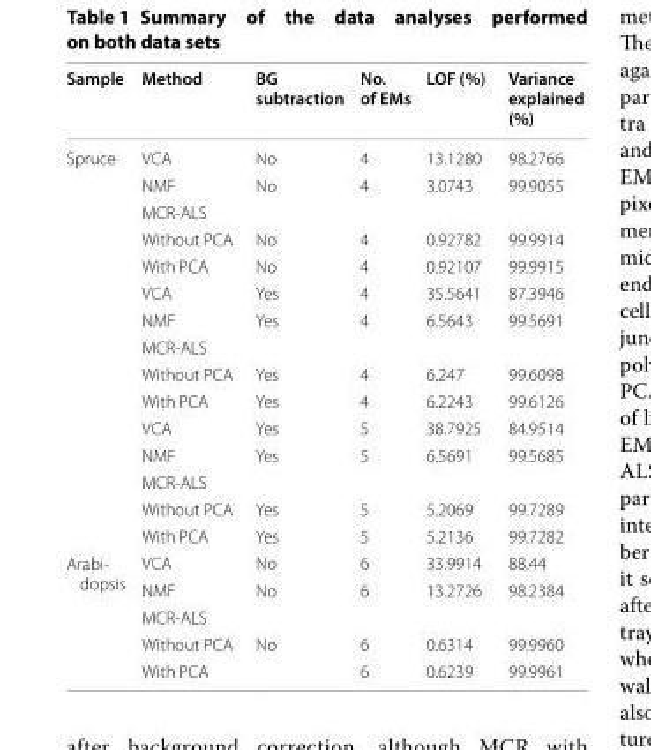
<table><thead><tr><td>Sample</td><td>Method</td><td>BG subtraction</td><td>No. of EMs</td><td>LOF (%)</td><td>Variance explained (%)</td></tr></thead><tbody><tr><td rowspan="15">Spruce</td><td>VCA</td><td>No</td><td>4</td><td>13.1280</td><td>98.2766</td></tr><tr><td>NMF</td><td>No</td><td>4</td><td>3.0743</td><td>99.9055</td></tr><tr><td colspan="5">MCR‑ALS</td></tr><tr><td>Without PCA</td><td>No</td><td>4</td><td>0.92782</td><td>99.9914</td></tr><tr><td>With PCA</td><td>No</td><td>4</td><td>0.92107</td><td>99.9915</td></tr><tr><td>VCA</td><td>Yes</td><td>4</td><td>35.5641</td><td>87.3946</td></tr><tr><td>NMF</td><td>Yes</td><td>4</td><td>6.5643</td><td>99.5691</td></tr><tr><td colspan="5">MCR‑ALS</td></tr><tr><td>Without PCA</td><td>Yes</td><td>4</td><td>6.247</td><td>99.6098</td></tr><tr><td>With PCA</td><td>Yes</td><td>4</td><td>6.2243</td><td>99.6126</td></tr><tr><td>VCA</td><td>Yes</td><td>5</td><td>38.7925</td><td>84.9514</td></tr><tr><td>NMF</td><td>Yes</td><td>5</td><td>6.5691</td><td>99.5685</td></tr><tr><td colspan="5">MCR‑ALS</td></tr><tr><td>Without PCA</td><td>Yes</td><td>5</td><td>5.2069</td><td>99.7289</td></tr><tr><td>With PCA</td><td>Yes</td><td>5</td><td>5.2136</td><td>99.7282</td></tr><tr><td rowspan="5">Arabi‑ dopsis</td><td>VCA</td><td>No</td><td>6</td><td>33.9914</td><td>88.44</td></tr><tr><td>NMF</td><td>No</td><td>6</td><td>13.2726</td><td>98.2384</td></tr><tr><td colspan="5">MCR‑ALS</td></tr><tr><td>Without PCA</td><td rowspan="2">No</td><td>6</td><td>0.6314</td><td>99.9960</td></tr><tr><td>With PCA</td><td>6</td><td>0.6239</td><td>99.9961</td></tr></tbody></table>